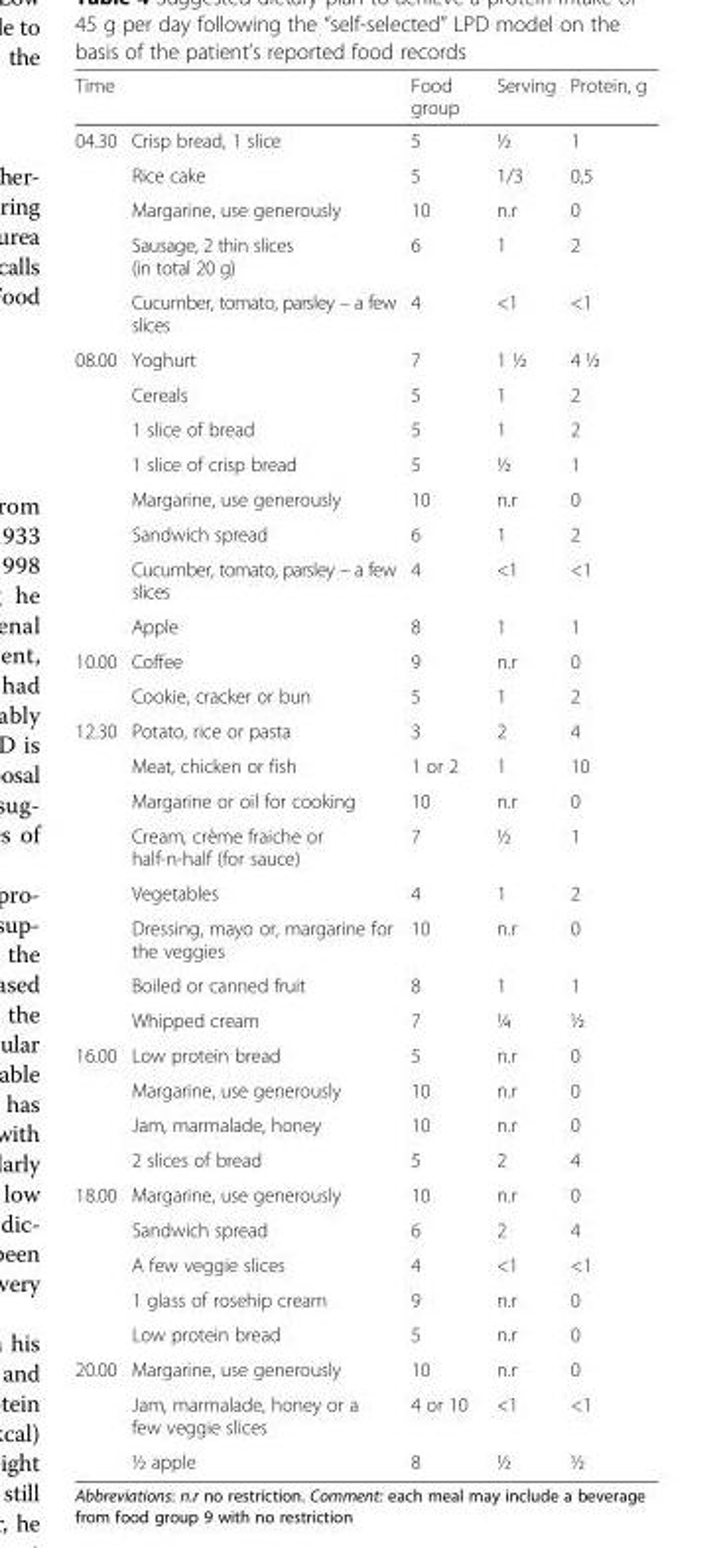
<table><thead><tr><td>Time</td><td></td><td>Food group</td><td>Serving</td><td>Protein, g</td></tr></thead><tbody><tr><td rowspan="5">04.30</td><td>Crisp bread, 1 slice</td><td>5</td><td>½</td><td>1</td></tr><tr><td>Rice cake</td><td>5</td><td>1/3</td><td>0,5</td></tr><tr><td>Margarine, use generously</td><td>10</td><td>n.r</td><td>0</td></tr><tr><td>Sausage, 2 thin slices (in total 20 g)</td><td>6</td><td>1</td><td>2</td></tr><tr><td>Cucumber, tomato, parsley – a few slices</td><td>4</td><td>&lt;1</td><td>&lt;1</td></tr><tr><td rowspan="8">08.00</td><td>Yoghurt</td><td>7</td><td>1 ½</td><td>4 ½</td></tr><tr><td>Cereals</td><td>5</td><td>1</td><td>2</td></tr><tr><td>1 slice of bread</td><td>5</td><td>1</td><td>2</td></tr><tr><td>1 slice of crisp bread</td><td>5</td><td>½</td><td>1</td></tr><tr><td>Margarine, use generously</td><td>10</td><td>n.r</td><td>0</td></tr><tr><td>Sandwich spread</td><td>6</td><td>1</td><td>2</td></tr><tr><td>Cucumber, tomato, parsley – a few slices</td><td>4</td><td>&lt;1</td><td>&lt;1</td></tr><tr><td>Apple</td><td>8</td><td>1</td><td>1</td></tr><tr><td rowspan="2">10.00</td><td>Coffee</td><td>9</td><td>n.r</td><td>0</td></tr><tr><td>Cookie, cracker or bun</td><td>5</td><td>1</td><td>2</td></tr><tr><td rowspan="8">12.30</td><td>Potato, rice or pasta</td><td>3</td><td>2</td><td>4</td></tr><tr><td>Meat, chicken or fish</td><td>1 or 2</td><td>1</td><td>10</td></tr><tr><td>Margarine or oil for cooking</td><td>10</td><td>n.r</td><td>0</td></tr><tr><td>Cream, crème fraiche or half-n-half (for sauce)</td><td>7</td><td>½</td><td>1</td></tr><tr><td>Vegetables</td><td>4</td><td>1</td><td>2</td></tr><tr><td>Dressing, mayo or, margarine for the veggies</td><td>10</td><td>n.r</td><td>0</td></tr><tr><td>Boiled or canned fruit</td><td>8</td><td>1</td><td>1</td></tr><tr><td>Whipped cream</td><td>7</td><td>¼</td><td>½</td></tr><tr><td rowspan="4">16.00</td><td>Low protein bread</td><td>5</td><td>n.r</td><td>0</td></tr><tr><td>Margarine, use generously</td><td>10</td><td>n.r</td><td>0</td></tr><tr><td>Jam, marmalade, honey</td><td>10</td><td>n.r</td><td>0</td></tr><tr><td>2 slices of bread</td><td>5</td><td>2</td><td>4</td></tr><tr><td rowspan="5">18.00</td><td>Margarine, use generously</td><td>10</td><td>n.r</td><td>0</td></tr><tr><td>Sandwich spread</td><td>6</td><td>2</td><td>4</td></tr><tr><td>A few veggie slices</td><td>4</td><td>&lt;1</td><td>&lt;1</td></tr><tr><td>1 glass of rosehip cream</td><td>9</td><td>n.r</td><td>0</td></tr><tr><td>Low protein bread</td><td>5</td><td>n.r</td><td>0</td></tr><tr><td rowspan="3">20.00</td><td>Margarine, use generously</td><td>10</td><td>n.r</td><td>0</td></tr><tr><td>Jam, marmalade, honey or a few veggie slices</td><td>4 or 10</td><td>&lt;1</td><td>&lt;1</td></tr><tr><td>½ apple</td><td>8</td><td>½</td><td>½</td></tr></tbody></table>